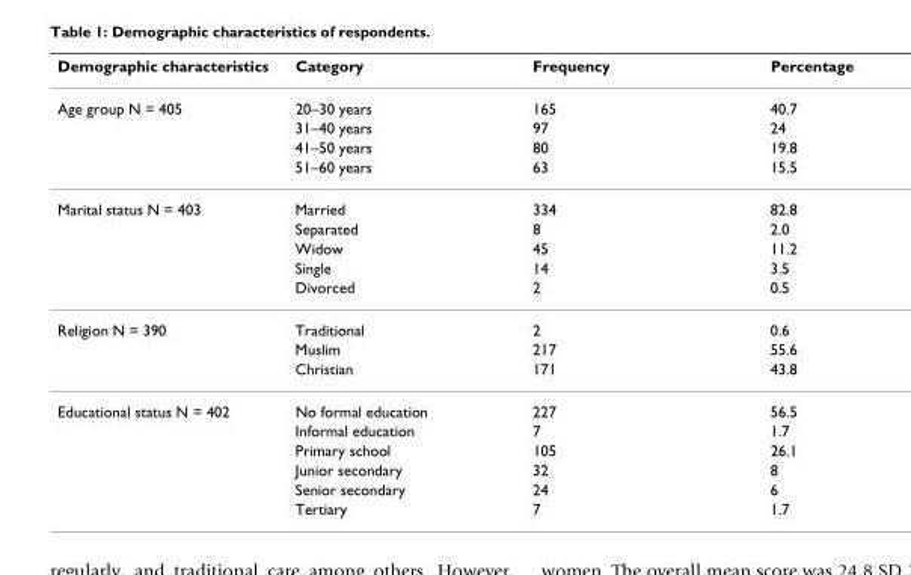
<table><thead><tr><td>Demographic characteristics</td><td>Category</td><td>Frequency</td><td>Percentage</td></tr></thead><tbody><tr><td rowspan="4">Age group N = 405</td><td>20–30 years</td><td>165</td><td>40.7</td></tr><tr><td>31–40 years</td><td>97</td><td>24</td></tr><tr><td>41–50 years</td><td>80</td><td>19.8</td></tr><tr><td>51–60 years</td><td>63</td><td>15.5</td></tr><tr><td rowspan="5">Marital status N = 403</td><td>Married</td><td>334</td><td>82.8</td></tr><tr><td>Separated</td><td>8</td><td>2.0</td></tr><tr><td>Widow</td><td>45</td><td>11.2</td></tr><tr><td>Single</td><td>14</td><td>3.5</td></tr><tr><td>Divorced</td><td>2</td><td>0.5</td></tr><tr><td rowspan="3">Religion N = 390</td><td>Traditional</td><td>2</td><td>0.6</td></tr><tr><td>Muslim</td><td>217</td><td>55.6</td></tr><tr><td>Christian</td><td>171</td><td>43.8</td></tr><tr><td rowspan="6">Educational status N = 402</td><td>No formal education</td><td>227</td><td>56.5</td></tr><tr><td>Informal education</td><td>7</td><td>1.7</td></tr><tr><td>Primary school</td><td>105</td><td>26.1</td></tr><tr><td>Junior secondary</td><td>32</td><td>8</td></tr><tr><td>Senior secondary</td><td>24</td><td>6</td></tr><tr><td>Tertiary</td><td>7</td><td>1.7</td></tr></tbody></table>